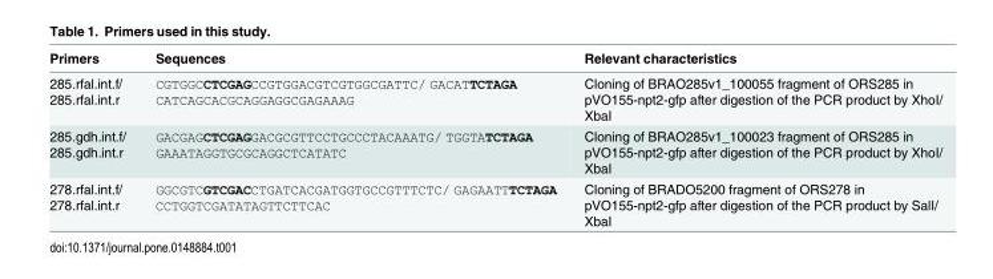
<table><thead><tr><td>Primers</td><td>Sequences</td><td>Relevant characteristics</td></tr></thead><tbody><tr><td>285.rfal.int.f/ 285.rfal.int.r</td><td>CGTGGCCTCGAGCCGTGGACGTCGTGGCGATTC/ GACATTCTAGA CATCAGCACGCAGGAGGCGAGAAAG</td><td>Cloning of BRAO285v1_100055 fragment of ORS285 in pVO155-npt2-gfp after digestion of the PCR product by XhoI/ XbaI</td></tr><tr><td>285.gdh.int.f/ 285.gdh.int.r</td><td>GACGAGCTCGAGGACGCGTTCCTGCCCTACAAATG/ TGGTATCTAGA GAAATAGGTGCGCAGGCTCATATC</td><td>Cloning of BRAO285v1_100023 fragment of ORS285 in pVO155-npt2-gfp after digestion of the PCR product by XhoI/ XbaI</td></tr><tr><td>278.rfal.int.f/ 278.rfal.int.r</td><td>GGCGTCGTCGACCTGATCACGATGGTGCCGTTTCTC/ GAGAATTTCTAGA CCTGGTCGATATAGTTCTTCAC</td><td>Cloning of BRADO5200 fragment of ORS278 in pVO155-npt2-gfp after digestion of the PCR product by SalI/ XbaI</td></tr></tbody></table>